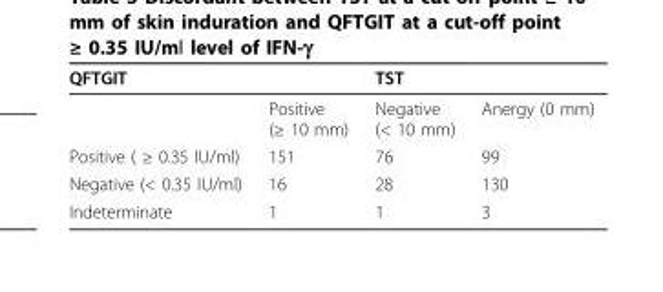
<table><thead><tr><td>QFTGIT</td><td></td><td>TST</td><td></td></tr></thead><tbody><tr><td></td><td>Positive (≥ 10 mm)</td><td>Negative (&lt; 10 mm)</td><td>Anergy (0 mm)</td></tr><tr><td>Positive ( ≥ 0.35 IU/ml)</td><td>151</td><td>76</td><td>99</td></tr><tr><td>Negative (&lt; 0.35 IU/ml)</td><td>16</td><td>28</td><td>130</td></tr><tr><td>Indeterminate</td><td>1</td><td>1</td><td>3</td></tr></tbody></table>